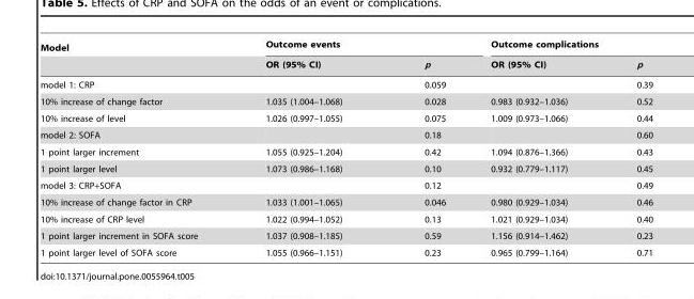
<table><thead><tr><td rowspan="2">Model</td><td colspan="2">Outcome events</td><td colspan="2">Outcome complications</td></tr><tr><td>OR (95% CI)</td><td>p</td><td>OR (95% CI)</td><td>p</td></tr></thead><tbody><tr><td>model 1: CRP</td><td></td><td>0.059</td><td></td><td>0.39</td></tr><tr><td>10% increase of change factor</td><td>1.035 (1.004–1.068)</td><td>0.028</td><td>0.983 (0.932–1.036)</td><td>0.52</td></tr><tr><td>10% increase of level</td><td>1.026 (0.997–1.055)</td><td>0.075</td><td>1.009 (0.973–1.066)</td><td>0.44</td></tr><tr><td>model 2: SOFA</td><td></td><td>0.18</td><td></td><td>0.60</td></tr><tr><td>1 point larger increment</td><td>1.055 (0.925–1.204)</td><td>0.42</td><td>1.094 (0.876–1.366)</td><td>0.43</td></tr><tr><td>1 point larger level</td><td>1.073 (0.986–1.168)</td><td>0.10</td><td>0.932 (0.779–1.117)</td><td>0.45</td></tr><tr><td>model 3: CRP+SOFA</td><td></td><td>0.12</td><td></td><td>0.49</td></tr><tr><td>10% increase of change factor in CRP</td><td>1.033 (1.001–1.065)</td><td>0.046</td><td>0.980 (0.929–1.034)</td><td>0.46</td></tr><tr><td>10% increase of CRP level</td><td>1.022 (0.994–1.052)</td><td>0.13</td><td>1.021 (0.929–1.034)</td><td>0.40</td></tr><tr><td>1 point larger increment in SOFA score</td><td>1.037 (0.908–1.185)</td><td>0.59</td><td>1.156 (0.914–1.462)</td><td>0.23</td></tr><tr><td>1 point larger level of SOFA score</td><td>1.055 (0.966–1.151)</td><td>0.23</td><td>0.965 (0.799–1.164)</td><td>0.71</td></tr></tbody></table>